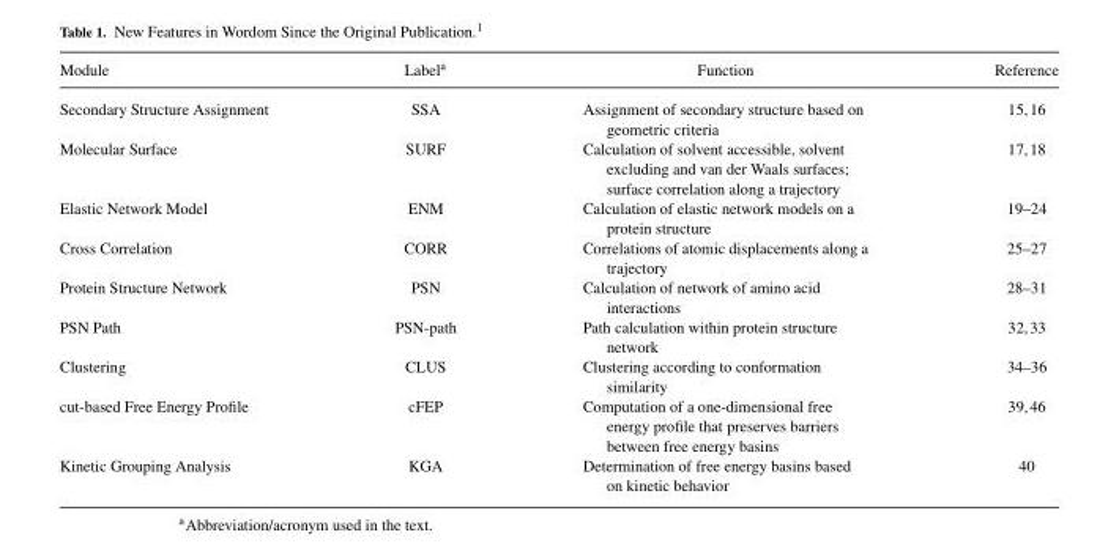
<table><thead><tr><td>Module</td><td>Label<sup>a</sup></td><td>Function</td><td>Reference</td></tr></thead><tbody><tr><td>Secondary Structure Assignment</td><td>SSA</td><td>Assignment of secondary structure based on geometric criteria</td><td>15,16</td></tr><tr><td>Molecular Surface</td><td>SURF</td><td>Calculation of solvent accessible, solvent excluding and van der Waals surfaces; surface correlation along a trajectory</td><td>17,18</td></tr><tr><td>Elastic Network Model</td><td>ENM</td><td>Calculation of elastic network models on a protein structure</td><td>19–24</td></tr><tr><td>Cross Correlation</td><td>CORR</td><td>Correlations of atomic displacements along a trajectory</td><td>25–27</td></tr><tr><td>Protein Structure Network</td><td>PSN</td><td>Calculation of network of amino acid interactions</td><td>28–31</td></tr><tr><td>PSN Path</td><td>PSN-path</td><td>Path calculation within protein structure network</td><td>32,33</td></tr><tr><td>Clustering</td><td>CLUS</td><td>Clustering according to conformation similarity</td><td>34–36</td></tr><tr><td>cut-based Free Energy Profile</td><td>cFEP</td><td>Computation of a one-dimensional free energy profile that preserves barriers between free energy basins</td><td>39,46</td></tr><tr><td>Kinetic Grouping Analysis</td><td>KGA</td><td>Determination of free energy basins based on kinetic behavior</td><td>40</td></tr></tbody></table>